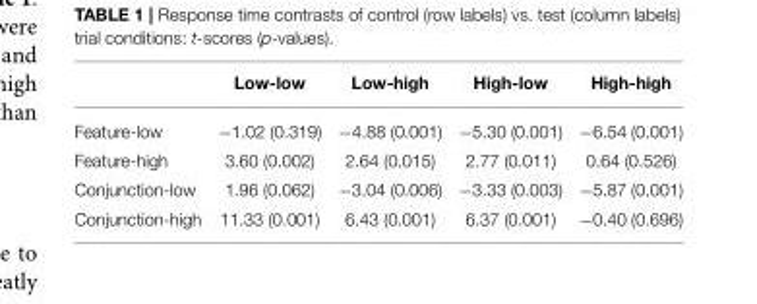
<table><thead><tr><td></td><td>Low-low</td><td>Low-high</td><td>High-low</td><td>High-high</td></tr></thead><tbody><tr><td>Feature-low</td><td>−1.02 (0.319)</td><td>−4.88 (0.001)</td><td>−5.30 (0.001)</td><td>−6.54 (0.001)</td></tr><tr><td>Feature-high</td><td>3.60 (0.002)</td><td>2.64 (0.015)</td><td>2.77 (0.011)</td><td>0.64 (0.526)</td></tr><tr><td>Conjunction-low</td><td>1.96 (0.062)</td><td>−3.04 (0.006)</td><td>−3.33 (0.003)</td><td>−5.87 (0.001)</td></tr><tr><td>Conjunction-high</td><td>11.33 (0.001)</td><td>6.43 (0.001)</td><td>6.37 (0.001)</td><td>−0.40 (0.696)</td></tr></tbody></table>